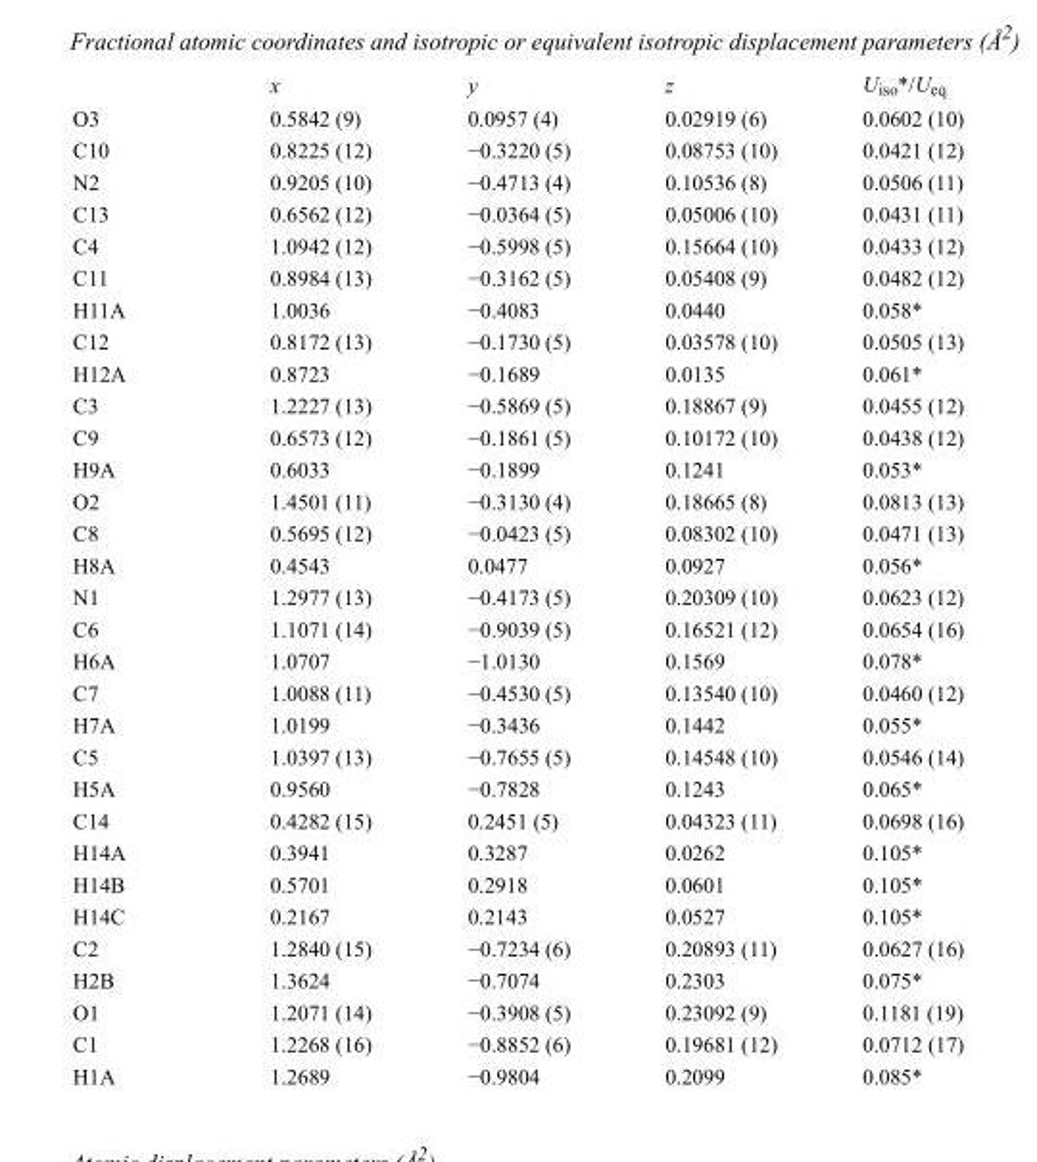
<table><thead><tr><td></td><td>x</td><td>y</td><td>z</td><td>U<sub>iso</sub>*/U<sub>eq</sub></td></tr></thead><tbody><tr><td>O3</td><td>0.5842 (9)</td><td>0.0957 (4)</td><td>0.02919 (6)</td><td>0.0602 (10)</td></tr><tr><td>C10</td><td>0.8225 (12)</td><td>−0.3220 (5)</td><td>0.08753 (10)</td><td>0.0421 (12)</td></tr><tr><td>N2</td><td>0.9205 (10)</td><td>−0.4713 (4)</td><td>0.10536 (8)</td><td>0.0506 (11)</td></tr><tr><td>C13</td><td>0.6562 (12)</td><td>−0.0364 (5)</td><td>0.05006 (10)</td><td>0.0431 (11)</td></tr><tr><td>C4</td><td>1.0942 (12)</td><td>−0.5998 (5)</td><td>0.15664 (10)</td><td>0.0433 (12)</td></tr><tr><td>C11</td><td>0.8984 (13)</td><td>−0.3162 (5)</td><td>0.05408 (9)</td><td>0.0482 (12)</td></tr><tr><td>H11A</td><td>1.0036</td><td>−0.4083</td><td>0.0440</td><td>0.058*</td></tr><tr><td>C12</td><td>0.8172 (13)</td><td>−0.1730 (5)</td><td>0.03578 (10)</td><td>0.0505 (13)</td></tr><tr><td>H12A</td><td>0.8723</td><td>−0.1689</td><td>0.0135</td><td>0.061*</td></tr><tr><td>C3</td><td>1.2227 (13)</td><td>−0.5869 (5)</td><td>0.18867 (9)</td><td>0.0455 (12)</td></tr><tr><td>C9</td><td>0.6573 (12)</td><td>−0.1861 (5)</td><td>0.10172 (10)</td><td>0.0438 (12)</td></tr><tr><td>H9A</td><td>0.6033</td><td>−0.1899</td><td>0.1241</td><td>0.053*</td></tr><tr><td>O2</td><td>1.4501 (11)</td><td>−0.3130 (4)</td><td>0.18665 (8)</td><td>0.0813 (13)</td></tr><tr><td>C8</td><td>0.5695 (12)</td><td>−0.0423 (5)</td><td>0.08302 (10)</td><td>0.0471 (13)</td></tr><tr><td>H8A</td><td>0.4543</td><td>0.0477</td><td>0.0927</td><td>0.056*</td></tr><tr><td>N1</td><td>1.2977 (13)</td><td>−0.4173 (5)</td><td>0.20309 (10)</td><td>0.0623 (12)</td></tr><tr><td>C6</td><td>1.1071 (14)</td><td>−0.9039 (5)</td><td>0.16521 (12)</td><td>0.0654 (16)</td></tr><tr><td>H6A</td><td>1.0707</td><td>−1.0130</td><td>0.1569</td><td>0.078*</td></tr><tr><td>C7</td><td>1.0088 (11)</td><td>−0.4530 (5)</td><td>0.13540 (10)</td><td>0.0460 (12)</td></tr><tr><td>H7A</td><td>1.0199</td><td>−0.3436</td><td>0.1442</td><td>0.055*</td></tr><tr><td>C5</td><td>1.0397 (13)</td><td>−0.7655 (5)</td><td>0.14548 (10)</td><td>0.0546 (14)</td></tr><tr><td>H5A</td><td>0.9560</td><td>−0.7828</td><td>0.1243</td><td>0.065*</td></tr><tr><td>C14</td><td>0.4282 (15)</td><td>0.2451 (5)</td><td>0.04323 (11)</td><td>0.0698 (16)</td></tr><tr><td>H14A</td><td>0.3941</td><td>0.3287</td><td>0.0262</td><td>0.105*</td></tr><tr><td>H14B</td><td>0.5701</td><td>0.2918</td><td>0.0601</td><td>0.105*</td></tr><tr><td>H14C</td><td>0.2167</td><td>0.2143</td><td>0.0527</td><td>0.105*</td></tr><tr><td>C2</td><td>1.2840 (15)</td><td>−0.7234 (6)</td><td>0.20893 (11)</td><td>0.0627 (16)</td></tr><tr><td>H2B</td><td>1.3624</td><td>−0.7074</td><td>0.2303</td><td>0.075*</td></tr><tr><td>O1</td><td>1.2071 (14)</td><td>−0.3908 (5)</td><td>0.23092 (9)</td><td>0.1181 (19)</td></tr><tr><td>C1</td><td>1.2268 (16)</td><td>−0.8852 (6)</td><td>0.19681 (12)</td><td>0.0712 (17)</td></tr><tr><td>H1A</td><td>1.2689</td><td>−0.9804</td><td>0.2099</td><td>0.085*</td></tr></tbody></table>